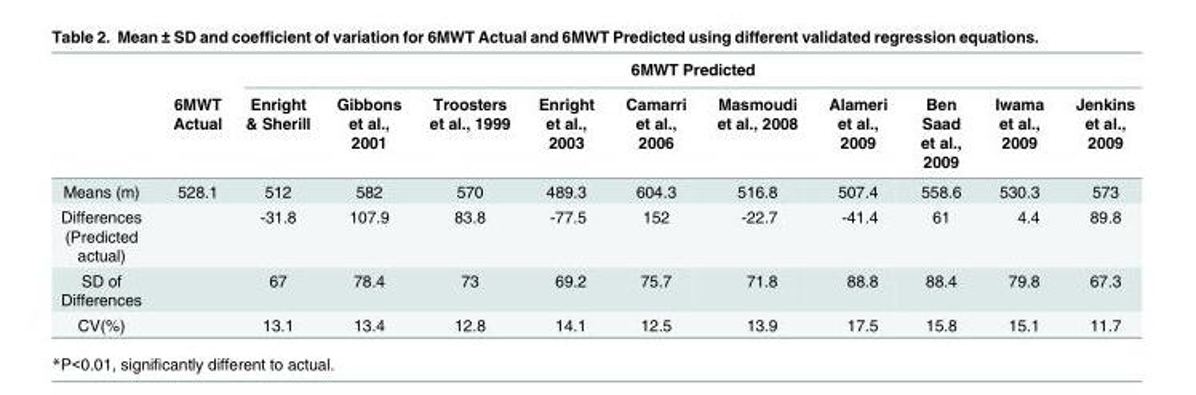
<table><thead><tr><td rowspan="2"></td><td rowspan="2">6MWT Actual</td><td colspan="10">6MWT Predicted</td></tr><tr><td>Enright &amp; Sherill</td><td>Gibbons et al., 2001</td><td>Troosters et al., 1999</td><td>Enright et al., 2003</td><td>Camarri et al., 2006</td><td>Masmoudi et al., 2008</td><td>Alameri et al., 2009</td><td>Ben Saad et al., 2009</td><td>Iwama et al., 2009</td><td>Jenkins et al., 2009</td></tr></thead><tbody><tr><td>Means (m)</td><td>528.1</td><td>512</td><td>582</td><td>570</td><td>489.3</td><td>604.3</td><td>516.8</td><td>507.4</td><td>558.6</td><td>530.3</td><td>573</td></tr><tr><td>Differences (Predicted actual)</td><td></td><td>-31.8</td><td>107.9</td><td>83.8</td><td>-77.5</td><td>152</td><td>-22.7</td><td>-41.4</td><td>61</td><td>4.4</td><td>89.8</td></tr><tr><td>SD of Differences</td><td></td><td>67</td><td>78.4</td><td>73</td><td>69.2</td><td>75.7</td><td>71.8</td><td>88.8</td><td>88.4</td><td>79.8</td><td>67.3</td></tr><tr><td>CV(%)</td><td></td><td>13.1</td><td>13.4</td><td>12.8</td><td>14.1</td><td>12.5</td><td>13.9</td><td>17.5</td><td>15.8</td><td>15.1</td><td>11.7</td></tr></tbody></table>